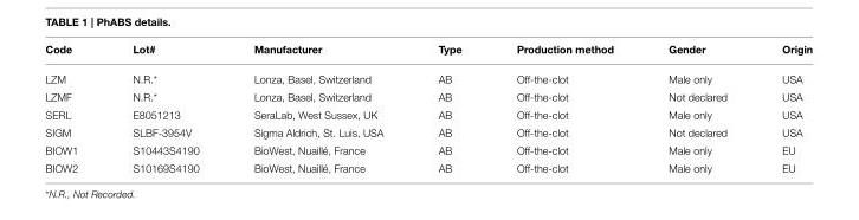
<table><thead><tr><td>Code</td><td>Lot#</td><td>Manufacturer</td><td>Type</td><td>Production method</td><td>Gender</td><td>Origin</td></tr></thead><tbody><tr><td>LZM</td><td>N.R.*</td><td>Lonza, Basel, Switzerland</td><td>AB</td><td>Off-the-clot</td><td>Male only</td><td>USA</td></tr><tr><td>LZMF</td><td>N.R.*</td><td>Lonza, Basel, Switzerland</td><td>AB</td><td>Off-the-clot</td><td>Not declared</td><td>USA</td></tr><tr><td>SERL</td><td>E8051213</td><td>SeraLab, West Sussex, UK</td><td>AB</td><td>Off-the-clot</td><td>Male only</td><td>USA</td></tr><tr><td>SIGM</td><td>SLBF-3954V</td><td>Sigma Aldrich, St. Luis, USA</td><td>AB</td><td>Off-the-clot</td><td>Not declared</td><td>USA</td></tr><tr><td>BIOW1</td><td>S10443S4190</td><td>BioWest, Nuaillé, France</td><td>AB</td><td>Off-the-clot</td><td>Male only</td><td>EU</td></tr><tr><td>BIOW2</td><td>S10169S4190</td><td>BioWest, Nuaillé, France</td><td>AB</td><td>Off-the-clot</td><td>Male only</td><td>EU</td></tr></tbody></table>